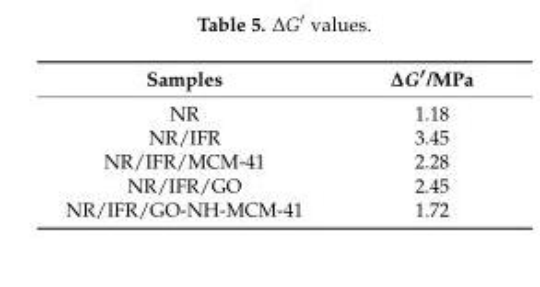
<table><thead><tr><td>Samples</td><td>∆G′/MPa</td></tr></thead><tbody><tr><td>NR</td><td>1.18</td></tr><tr><td>NR/IFR</td><td>3.45</td></tr><tr><td>NR/IFR/MCM-41</td><td>2.28</td></tr><tr><td>NR/IFR/GO</td><td>2.45</td></tr><tr><td>NR/IFR/GO-NH-MCM-41</td><td>1.72</td></tr></tbody></table>